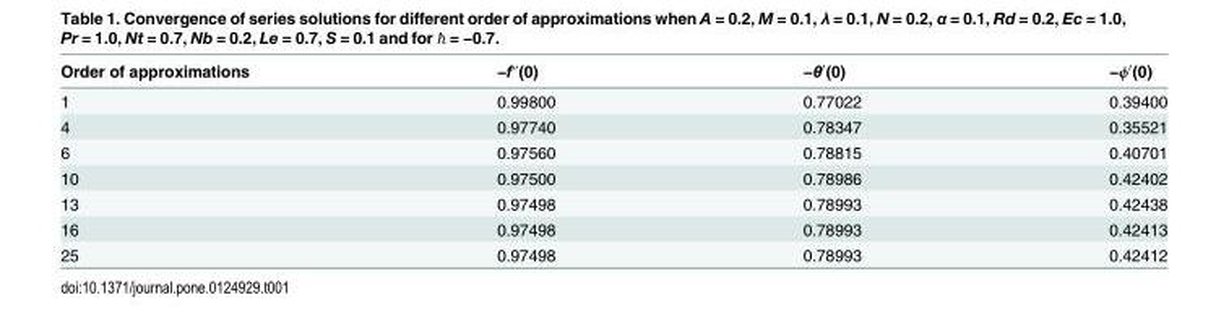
<table><thead><tr><td>Order of approximations</td><td>−f″(0)</td><td>−θ′(0)</td><td>−ϕ′(0)</td></tr></thead><tbody><tr><td>1</td><td>0.99800</td><td>0.77022</td><td>0.39400</td></tr><tr><td>4</td><td>0.97740</td><td>0.78347</td><td>0.35521</td></tr><tr><td>6</td><td>0.97560</td><td>0.78815</td><td>0.40701</td></tr><tr><td>10</td><td>0.97500</td><td>0.78986</td><td>0.42402</td></tr><tr><td>13</td><td>0.97498</td><td>0.78993</td><td>0.42438</td></tr><tr><td>16</td><td>0.97498</td><td>0.78993</td><td>0.42413</td></tr><tr><td>25</td><td>0.97498</td><td>0.78993</td><td>0.42412</td></tr></tbody></table>